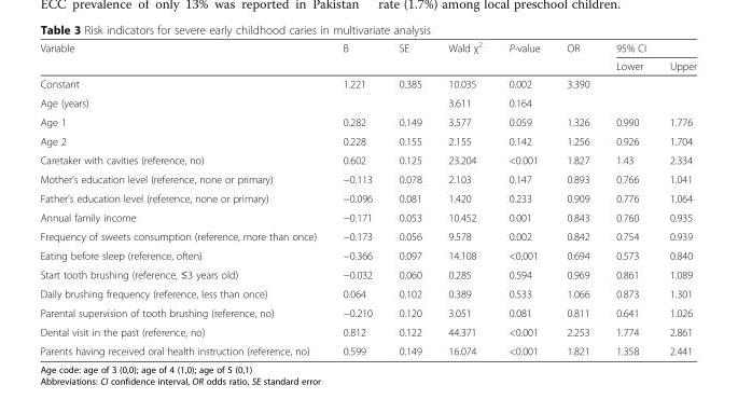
<table><thead><tr><td rowspan="2">Variable</td><td rowspan="2">B</td><td rowspan="2">SE</td><td rowspan="2">Wald χ<sup>2</sup></td><td rowspan="2">P-value</td><td rowspan="2">OR</td><td colspan="2">95% CI</td></tr><tr><td>Lower</td><td>Upper</td></tr></thead><tbody><tr><td>Constant</td><td>1.221</td><td>0.385</td><td>10.035</td><td>0.002</td><td>3.390</td><td></td><td></td></tr><tr><td>Age (years)</td><td></td><td></td><td>3.611</td><td>0.164</td><td></td><td></td><td></td></tr><tr><td>Age 1</td><td>0.282</td><td>0.149</td><td>3.577</td><td>0.059</td><td>1.326</td><td>0.990</td><td>1.776</td></tr><tr><td>Age 2</td><td>0.228</td><td>0.155</td><td>2.155</td><td>0.142</td><td>1.256</td><td>0.926</td><td>1.704</td></tr><tr><td>Caretaker with cavities (reference, no)</td><td>0.602</td><td>0.125</td><td>23.204</td><td>&lt;0.001</td><td>1.827</td><td>1.43</td><td>2.334</td></tr><tr><td>Mother’s education level (reference, none or primary)</td><td>−0.113</td><td>0.078</td><td>2.103</td><td>0.147</td><td>0.893</td><td>0.766</td><td>1.041</td></tr><tr><td>Father’s education level (reference, none or primary)</td><td>−0.096</td><td>0.081</td><td>1.420</td><td>0.233</td><td>0.909</td><td>0.776</td><td>1.064</td></tr><tr><td>Annual family income</td><td>−0.171</td><td>0.053</td><td>10.452</td><td>0.001</td><td>0.843</td><td>0.760</td><td>0.935</td></tr><tr><td>Frequency of sweets consumption (reference, more than once)</td><td>−0.173</td><td>0.056</td><td>9.578</td><td>0.002</td><td>0.842</td><td>0.754</td><td>0.939</td></tr><tr><td>Eating before sleep (reference, often)</td><td>−0.366</td><td>0.097</td><td>14.108</td><td>&lt;0.001</td><td>0.694</td><td>0.573</td><td>0.840</td></tr><tr><td>Start tooth brushing (reference, ≤3 years old)</td><td>−0.032</td><td>0.060</td><td>0.285</td><td>0.594</td><td>0.969</td><td>0.861</td><td>1.089</td></tr><tr><td>Daily brushing frequency (reference, less than once)</td><td>0.064</td><td>0.102</td><td>0.389</td><td>0.533</td><td>1.066</td><td>0.873</td><td>1.301</td></tr><tr><td>Parental supervision of tooth brushing (reference, no)</td><td>−0.210</td><td>0.120</td><td>3.051</td><td>0.081</td><td>0.811</td><td>0.641</td><td>1.026</td></tr><tr><td>Dental visit in the past (reference, no)</td><td>0.812</td><td>0.122</td><td>44.371</td><td>&lt;0.001</td><td>2.253</td><td>1.774</td><td>2.861</td></tr><tr><td>Parents having received oral health instruction (reference, no)</td><td>0.599</td><td>0.149</td><td>16.074</td><td>&lt;0.001</td><td>1.821</td><td>1.358</td><td>2.441</td></tr></tbody></table>